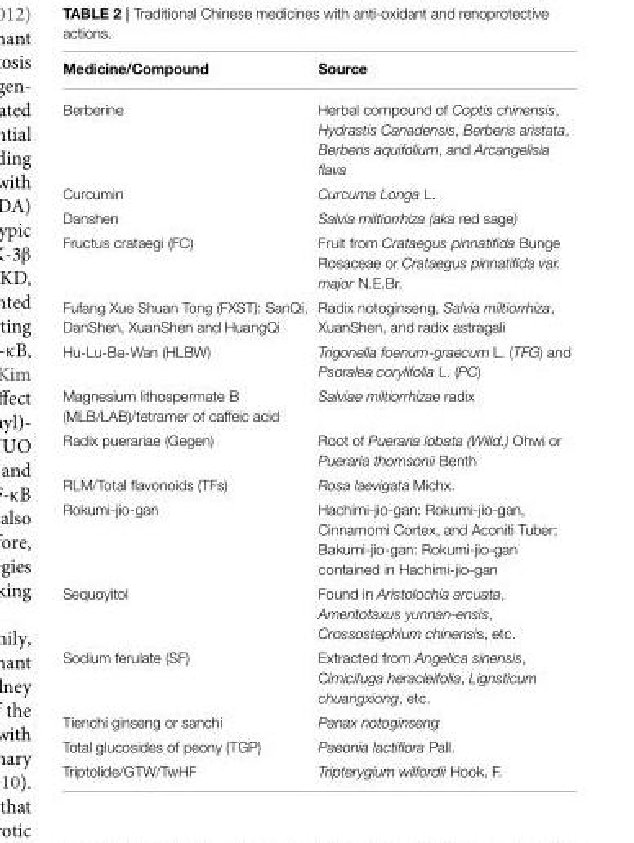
<table><thead><tr><td>Medicine/Compound</td><td>Source</td></tr></thead><tbody><tr><td>Berberine</td><td>Herbal compound of Coptis chinensis, Hydrastis Canadensis, Berberis aristata, Berberis aquifolium, and Arcangelisia flava</td></tr><tr><td>Curcumin</td><td>Curcuma Longa L.</td></tr><tr><td>Danshen</td><td>Salvia miltiorrhiza (aka red sage)</td></tr><tr><td>Fructus crataegi (FC)</td><td>Fruit from Crataegus pinnatifida Bunge Rosaceae or Crataegus pinnatifida var. major N.E.Br.</td></tr><tr><td>Fufang Xue Shuan Tong (FXST): SanQi, DanShen, XuanShen and HuangQi</td><td>Radix notoginseng, Salvia miltiorrhiza, XuanShen, and radix astragali</td></tr><tr><td>Hu-Lu-Ba-Wan (HLBW)</td><td>Trigonella foenum-graecum L. (TFG) and Psoralea corylifolia L. (PC)</td></tr><tr><td>Magnesium lithospermate B (MLB/LAB)/tetramer of caffeic acid</td><td>Salviae miltiorrhizae radix</td></tr><tr><td>Radix puerariae (Gegen)</td><td>Root of Pueraria lobata (Willd.) Ohwi or Pueraria thomsonii Benth</td></tr><tr><td>RLM/Total flavonoids (TFs)</td><td>Rosa laevigata Michx.</td></tr><tr><td>Rokumi-jio-gan</td><td>Hachimi-jio-gan: Rokumi-jio-gan, Cinnamomi Cortex, and Aconiti Tuber; Bakumi-jio-gan: Rokumi-jio-gan contained in Hachimi-jio-gan</td></tr><tr><td>Sequoyitol</td><td>Found in Aristolochia arcuata, Amentotaxus yunnan-ensis, Crossostephium chinensis, etc.</td></tr><tr><td>Sodium ferulate (SF)</td><td>Extracted from Angelica sinensis, Cimicifuga heracleifolia, Lignsticum chuangxiong, etc.</td></tr><tr><td>Tienchi ginseng or sanchi</td><td>Panax notoginseng</td></tr><tr><td>Total glucosides of peony (TGP)</td><td>Paeonia lactiflora Pall.</td></tr><tr><td>Triptolide/GTW/TwHF</td><td>Tripterygium wilfordii Hook. F.</td></tr></tbody></table>